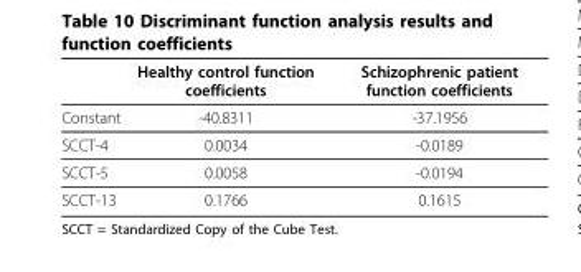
<table><thead><tr><td></td><td>Healthy control function coefficients</td><td>Schizophrenic patient function coefficients</td></tr></thead><tbody><tr><td>Constant</td><td>-40.8311</td><td>-37.1956</td></tr><tr><td>SCCT-4</td><td>0.0034</td><td>-0.0189</td></tr><tr><td>SCCT-5</td><td>0.0058</td><td>-0.0194</td></tr><tr><td>SCCT-13</td><td>0.1766</td><td>0.1615</td></tr></tbody></table>